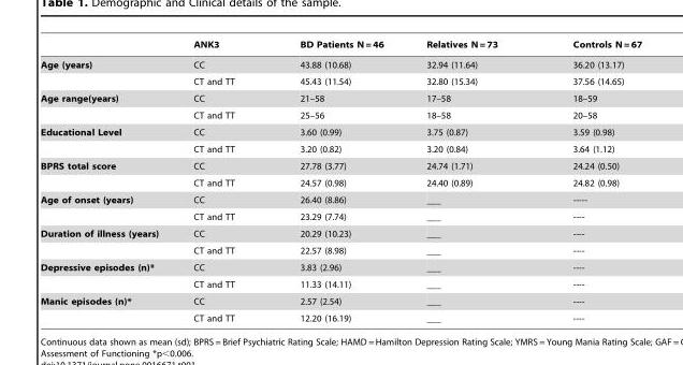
<table><thead><tr><td></td><td>ANK3</td><td>BD Patients N = 46</td><td>Relatives N = 73</td><td>Controls N = 67</td></tr></thead><tbody><tr><td rowspan="2">Age (years)</td><td>CC</td><td>43.88 (10.68)</td><td>32.94 (11.64)</td><td>36.20 (13.17)</td></tr><tr><td>CT and TT</td><td>45.43 (11.54)</td><td>32.80 (15.34)</td><td>37.56 (14.65)</td></tr><tr><td rowspan="2">Age range(years)</td><td>CC</td><td>21–58</td><td>17–58</td><td>18–59</td></tr><tr><td>CT and TT</td><td>25–56</td><td>18–58</td><td>20–58</td></tr><tr><td rowspan="2">Educational Level</td><td>CC</td><td>3.60 (0.99)</td><td>3.75 (0.87)</td><td>3.59 (0.98)</td></tr><tr><td>CT and TT</td><td>3.20 (0.82)</td><td>3.20 (0.84)</td><td>3.64 (1.12)</td></tr><tr><td rowspan="2">BPRS total score</td><td>CC</td><td>27.78 (3.77)</td><td>24.74 (1.71)</td><td>24.24 (0.50)</td></tr><tr><td>CT and TT</td><td>24.57 (0.98)</td><td>24.40 (0.89)</td><td>24.82 (0.98)</td></tr><tr><td rowspan="2">Age of onset (years)</td><td>CC</td><td>26.40 (8.86)</td><td>___</td><td>-----</td></tr><tr><td>CT and TT</td><td>23.29 (7.74)</td><td>___</td><td>----</td></tr><tr><td rowspan="2">Duration of illness (years)</td><td>CC</td><td>20.29 (10.23)</td><td>___</td><td>----</td></tr><tr><td>CT and TT</td><td>22.57 (8.98)</td><td>___</td><td>----</td></tr><tr><td rowspan="2">Depressive episodes (n)*</td><td>CC</td><td>3.83 (2.96)</td><td>___</td><td>----</td></tr><tr><td>CT and TT</td><td>11.33 (14.11)</td><td>___</td><td>----</td></tr><tr><td rowspan="2">Manic episodes (n)*</td><td>CC</td><td>2.57 (2.54)</td><td>___</td><td>----</td></tr><tr><td>CT and TT</td><td>12.20 (16.19)</td><td>___</td><td>----</td></tr></tbody></table>